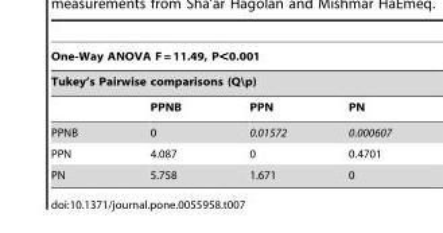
<table><thead><tr><td rowspan="2" colspan="4">One-Way ANOVA F = 11.49, P&lt;0.001 Tukey’s Pairwise comparisons (Q\p)</td></tr><tr></tr><tr><td></td><td>PPNB</td><td>PPN</td><td>PN</td></tr></thead><tbody><tr><td>PPNB</td><td>0</td><td>0.01572</td><td>0.000607</td></tr><tr><td>PPN</td><td>4.087</td><td>0</td><td>0.4701</td></tr><tr><td>PN</td><td>5.758</td><td>1.671</td><td>0</td></tr></tbody></table>